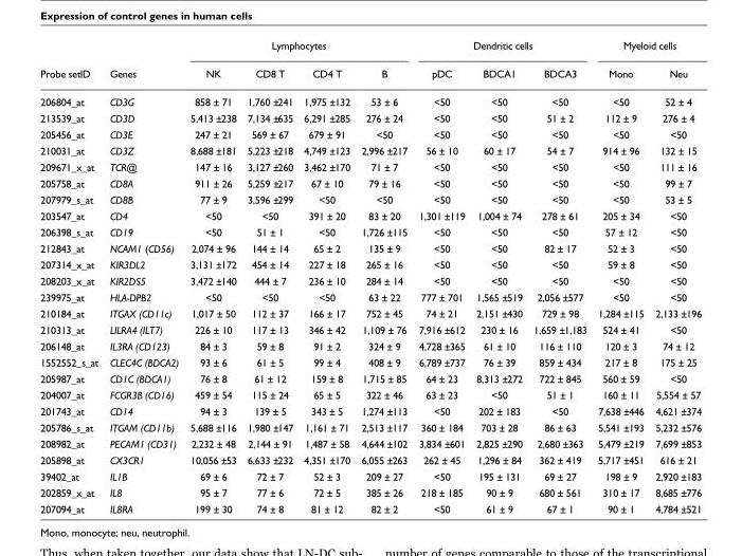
<table><thead><tr><td rowspan="2">Probe set ID</td><td rowspan="2">Genes</td><td colspan="4">Lymphocytes</td><td colspan="3">Dendritic cells</td><td colspan="2">Myeloid cells</td></tr><tr><td>NK</td><td>CD8 T</td><td>CD4 T</td><td>B</td><td>pDC</td><td>BDCA1</td><td>BDCA3</td><td>Mono</td><td>Neu</td></tr></thead><tbody><tr><td>206804_at</td><td>CD3G</td><td>858 ± 71</td><td>1,760 ± 241</td><td>1,975 ± 132</td><td>53 ± 6</td><td>&lt;50</td><td>&lt;50</td><td>&lt;50</td><td>&lt;50</td><td>52 ± 4</td></tr><tr><td>213539_at</td><td>CD3D</td><td>5,413 ± 238</td><td>7,134 ± 635</td><td>6,291 ± 285</td><td>276 ± 24</td><td>&lt;50</td><td>&lt;50</td><td>51 ± 2</td><td>112 ± 9</td><td>276 ± 4</td></tr><tr><td>205456_at</td><td>CD3E</td><td>247 ± 21</td><td>569 ± 67</td><td>679 ± 91</td><td>&lt;50</td><td>&lt;50</td><td>&lt;50</td><td>&lt;50</td><td>&lt;50</td><td>&lt;50</td></tr><tr><td>210031_at</td><td>CD3Z</td><td>8,688 ± 181</td><td>5,223 ± 218</td><td>4,749 ± 123</td><td>2,996 ± 217</td><td>56 ± 10</td><td>60 ± 17</td><td>54 ± 7</td><td>914 ± 96</td><td>132 ± 15</td></tr><tr><td>209671_x_at</td><td>TCR@</td><td>147 ± 16</td><td>3,127 ± 260</td><td>3,462 ± 170</td><td>71 ± 7</td><td>&lt;50</td><td>&lt;50</td><td>&lt;50</td><td>&lt;50</td><td>111 ± 16</td></tr><tr><td>205758_at</td><td>CD8A</td><td>911 ± 26</td><td>5,259 ± 217</td><td>67 ± 10</td><td>79 ± 16</td><td>&lt;50</td><td>&lt;50</td><td>&lt;50</td><td>&lt;50</td><td>99 ± 7</td></tr><tr><td>207979_s_at</td><td>CD8B</td><td>77 ± 9</td><td>3,596 ± 299</td><td>&lt;50</td><td>&lt;50</td><td>&lt;50</td><td>&lt;50</td><td>&lt;50</td><td>&lt;50</td><td>53 ± 5</td></tr><tr><td>203547_at</td><td>CD4</td><td>&lt;50</td><td>&lt;50</td><td>391 ± 20</td><td>83 ± 20</td><td>1,301 ± 119</td><td>1,004 ± 74</td><td>278 ± 61</td><td>205 ± 34</td><td>&lt;50</td></tr><tr><td>206398_s_at</td><td>CD19</td><td>&lt;50</td><td>51 ± 1</td><td>&lt;50</td><td>1,726 ± 115</td><td>&lt;50</td><td>&lt;50</td><td>&lt;50</td><td>57 ± 12</td><td>&lt;50</td></tr><tr><td>212843_at</td><td>NCAM1 (CD56)</td><td>2,074 ± 96</td><td>144 ± 14</td><td>65 ± 2</td><td>135 ± 9</td><td>&lt;50</td><td>&lt;50</td><td>82 ± 17</td><td>52 ± 3</td><td>&lt;50</td></tr><tr><td>207314_x_at</td><td>KIR3DL2</td><td>3,131 ± 172</td><td>454 ± 14</td><td>227 ± 18</td><td>265 ± 16</td><td>&lt;50</td><td>&lt;50</td><td>&lt;50</td><td>59 ± 8</td><td>&lt;50</td></tr><tr><td>208203_x_at</td><td>KIR2DS5</td><td>3,472 ± 140</td><td>444 ± 7</td><td>236 ± 10</td><td>284 ± 14</td><td>&lt;50</td><td>&lt;50</td><td>&lt;50</td><td>&lt;50</td><td>&lt;50</td></tr><tr><td>239975_at</td><td>HLA-DPB2</td><td>&lt;50</td><td>&lt;50</td><td>&lt;50</td><td>63 ± 22</td><td>777 ± 701</td><td>1,565 ± 519</td><td>2,056 ± 577</td><td>&lt;50</td><td>&lt;50</td></tr><tr><td>210184_at</td><td>ITGAX (CD11c)</td><td>1,017 ± 50</td><td>112 ± 37</td><td>166 ± 17</td><td>752 ± 45</td><td>74 ± 21</td><td>2,151 ± 430</td><td>729 ± 98</td><td>1,284 ± 115</td><td>2,133 ± 196</td></tr><tr><td>210313_at</td><td>LILRA4 (ILT7)</td><td>226 ± 10</td><td>117 ± 13</td><td>346 ± 42</td><td>1,109 ± 76</td><td>7,916 ± 612</td><td>230 ± 16</td><td>1,659 ± 1,183</td><td>524 ± 41</td><td>&lt;50</td></tr><tr><td>206148_at</td><td>IL3RA (CD123)</td><td>84 ± 3</td><td>59 ± 8</td><td>91 ± 2</td><td>324 ± 9</td><td>4,728 ± 365</td><td>61 ± 10</td><td>116 ± 110</td><td>120 ± 3</td><td>74 ± 12</td></tr><tr><td>1552552_s_at</td><td>CLEC4C (BDCA2)</td><td>93 ± 6</td><td>61 ± 5</td><td>99 ± 4</td><td>408 ± 9</td><td>6,789 ± 737</td><td>76 ± 39</td><td>859 ± 434</td><td>217 ± 8</td><td>175 ± 25</td></tr><tr><td>205987_at</td><td>CD1C (BDCA1)</td><td>76 ± 8</td><td>61 ± 12</td><td>159 ± 8</td><td>1,715 ± 85</td><td>64 ± 23</td><td>8,313 ± 272</td><td>722 ± 845</td><td>560 ± 59</td><td>&lt;50</td></tr><tr><td>204007_at</td><td>FCGR3B (CD16)</td><td>459 ± 54</td><td>115 ± 24</td><td>65 ± 5</td><td>322 ± 46</td><td>63 ± 23</td><td>&lt;50</td><td>51 ± 1</td><td>160 ± 11</td><td>5,554 ± 57</td></tr><tr><td>201743_at</td><td>CD14</td><td>94 ± 3</td><td>139 ± 5</td><td>343 ± 5</td><td>1,274 ± 113</td><td>&lt;50</td><td>202 ± 183</td><td>&lt;50</td><td>7,638 ± 446</td><td>4,621 ± 374</td></tr><tr><td>205786_s_at</td><td>ITGAM (CD11b)</td><td>5,688 ± 116</td><td>1,980 ± 147</td><td>1,161 ± 71</td><td>2,513 ± 117</td><td>360 ± 184</td><td>703 ± 28</td><td>86 ± 63</td><td>5,541 ± 193</td><td>5,232 ± 576</td></tr><tr><td>208982_at</td><td>PECAM1 (CD31)</td><td>2,232 ± 48</td><td>2,144 ± 91</td><td>1,487 ± 58</td><td>4,644 ± 102</td><td>3,834 ± 601</td><td>2,825 ± 290</td><td>2,680 ± 363</td><td>5,479 ± 219</td><td>7,699 ± 853</td></tr><tr><td>205898_at</td><td>CX3CR1</td><td>10,056 ± 53</td><td>6,633 ± 232</td><td>4,351 ± 170</td><td>6,055 ± 263</td><td>262 ± 45</td><td>1,296 ± 84</td><td>362 ± 419</td><td>5,717 ± 451</td><td>616 ± 21</td></tr><tr><td>39402_at</td><td>IL1B</td><td>69 ± 6</td><td>72 ± 7</td><td>52 ± 3</td><td>209 ± 27</td><td>&lt;50</td><td>195 ± 131</td><td>69 ± 27</td><td>198 ± 9</td><td>2,920 ± 183</td></tr><tr><td>202859_x_at</td><td>IL8</td><td>95 ± 7</td><td>77 ± 6</td><td>72 ± 5</td><td>385 ± 26</td><td>218 ± 185</td><td>90 ± 9</td><td>680 ± 561</td><td>310 ± 17</td><td>8,685 ± 776</td></tr><tr><td>207094_at</td><td>IL8RA</td><td>199 ± 30</td><td>74 ± 8</td><td>81 ± 12</td><td>82 ± 2</td><td>&lt;50</td><td>61 ± 9</td><td>67 ± 1</td><td>90 ± 1</td><td>4,784 ± 521</td></tr></tbody></table>